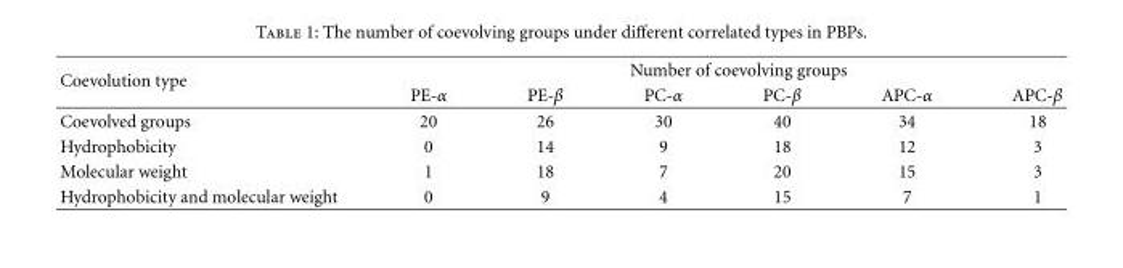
<table><thead><tr><td rowspan="2">Coevolution type</td><td colspan="6">Number of coevolving groups</td></tr><tr><td>PE-α</td><td>PE-β</td><td>PC-α</td><td>PC-β</td><td>APC-α</td><td>APC-β</td></tr></thead><tbody><tr><td>Coevolved groups</td><td>20</td><td>26</td><td>30</td><td>40</td><td>34</td><td>18</td></tr><tr><td>Hydrophobicity</td><td>0</td><td>14</td><td>9</td><td>18</td><td>12</td><td>3</td></tr><tr><td>Molecular weight</td><td>1</td><td>18</td><td>7</td><td>20</td><td>15</td><td>3</td></tr><tr><td>Hydrophobicity and molecular weight</td><td>0</td><td>9</td><td>4</td><td>15</td><td>7</td><td>1</td></tr></tbody></table>